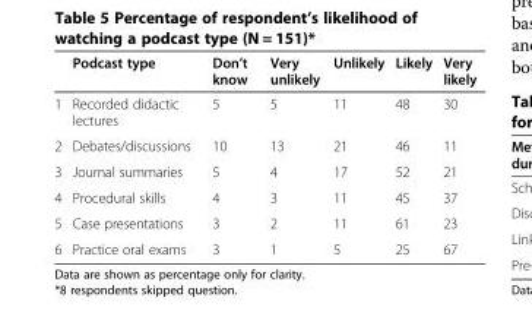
<table><thead><tr><td></td><td>Podcast type</td><td>Don’t know</td><td>Very unlikely</td><td>Unlikely</td><td>Likely</td><td>Very likely</td></tr></thead><tbody><tr><td>1</td><td>Recorded didactic lectures</td><td>5</td><td>5</td><td>11</td><td>48</td><td>30</td></tr><tr><td>2</td><td>Debates/discussions</td><td>10</td><td>13</td><td>21</td><td>46</td><td>11</td></tr><tr><td>3</td><td>Journal summaries</td><td>5</td><td>4</td><td>17</td><td>52</td><td>21</td></tr><tr><td>4</td><td>Procedural skills</td><td>4</td><td>3</td><td>11</td><td>45</td><td>37</td></tr><tr><td>5</td><td>Case presentations</td><td>3</td><td>2</td><td>11</td><td>61</td><td>23</td></tr><tr><td>6</td><td>Practice oral exams</td><td>3</td><td>1</td><td>5</td><td>25</td><td>67</td></tr></tbody></table>